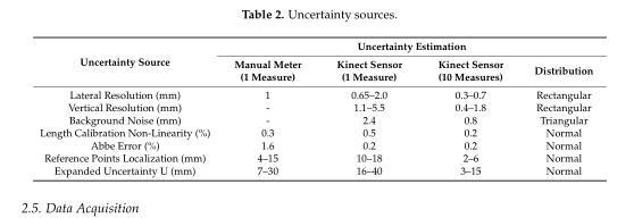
<table><thead><tr><td rowspan="2">Uncertainty Source</td><td colspan="4">Uncertainty Estimation</td></tr><tr><td>Manual Meter (1 Measure)</td><td>Kinect Sensor (1 Measure)</td><td>Kinect Sensor (10 Measures)</td><td>Distribution</td></tr></thead><tbody><tr><td>Lateral Resolution (mm)</td><td>1</td><td>0.65–2.0</td><td>0.3–0.7</td><td>Rectangular</td></tr><tr><td>Vertical Resolution (mm)</td><td>-</td><td>1.1–5.5</td><td>0.4–1.8</td><td>Rectangular</td></tr><tr><td>Background Noise (mm)</td><td>-</td><td>2.4</td><td>0.8</td><td>Triangular</td></tr><tr><td>Length Calibration Non-Linearity (%)</td><td>0.3</td><td>0.5</td><td>0.2</td><td>Normal</td></tr><tr><td>Abbe Error (%)</td><td>1.6</td><td>0.2</td><td>0.2</td><td>Normal</td></tr><tr><td>Reference Points Localization (mm)</td><td>4–15</td><td>10–18</td><td>2–6</td><td>Normal</td></tr><tr><td>Expanded Uncertainty U (mm)</td><td>7–30</td><td>16–40</td><td>3–15</td><td>Normal</td></tr></tbody></table>